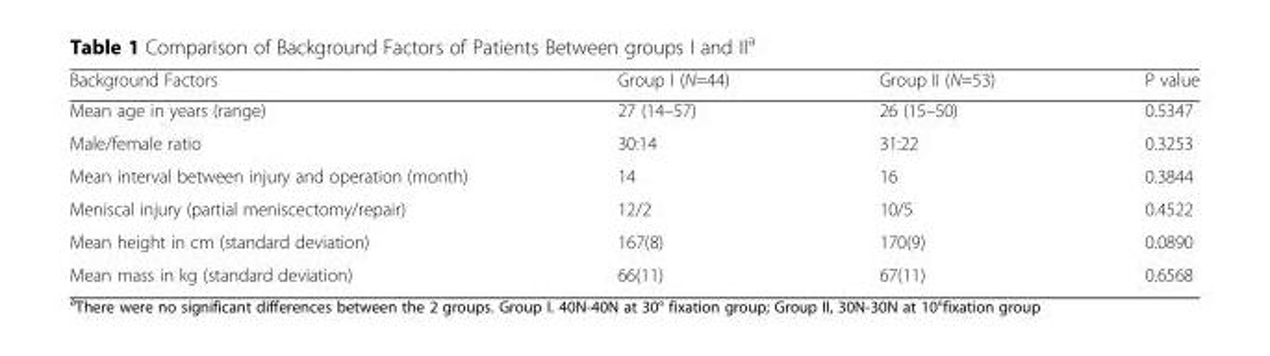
<table><thead><tr><td>Background Factors</td><td>Group I (N=44)</td><td>Group II (N=53)</td><td>P value</td></tr></thead><tbody><tr><td>Mean age in years (range)</td><td>27 (14–57)</td><td>26 (15–50)</td><td>0.5347</td></tr><tr><td>Male/female ratio</td><td>30:14</td><td>31:22</td><td>0.3253</td></tr><tr><td>Mean interval between injury and operation (month)</td><td>14</td><td>16</td><td>0.3844</td></tr><tr><td>Meniscal injury (partial meniscectomy/repair)</td><td>12/2</td><td>10/5</td><td>0.4522</td></tr><tr><td>Mean height in cm (standard deviation)</td><td>167(8)</td><td>170(9)</td><td>0.0890</td></tr><tr><td>Mean mass in kg (standard deviation)</td><td>66(11)</td><td>67(11)</td><td>0.6568</td></tr></tbody></table>